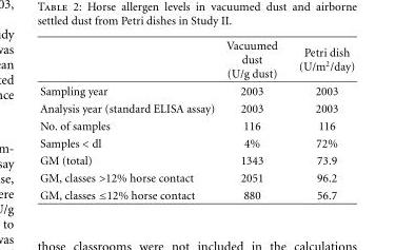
<table><thead><tr><td></td><td>Vacuumed dust (U/g dust)</td><td>Petri dish (U/m<sup>2</sup>/day)</td></tr></thead><tbody><tr><td>Sampling year</td><td>2003</td><td>2003</td></tr><tr><td>Analysis year (standard ELISA assay)</td><td>2003</td><td>2003</td></tr><tr><td>No. of samples</td><td>116</td><td>116</td></tr><tr><td>Samples &lt; dl</td><td>4%</td><td>72%</td></tr><tr><td>GM (total)</td><td>1343</td><td>73.9</td></tr><tr><td>GM, classes &gt;12% horse contact</td><td>2051</td><td>96.2</td></tr><tr><td>GM, classes ≤12% horse contact</td><td>880</td><td>56.7</td></tr></tbody></table>